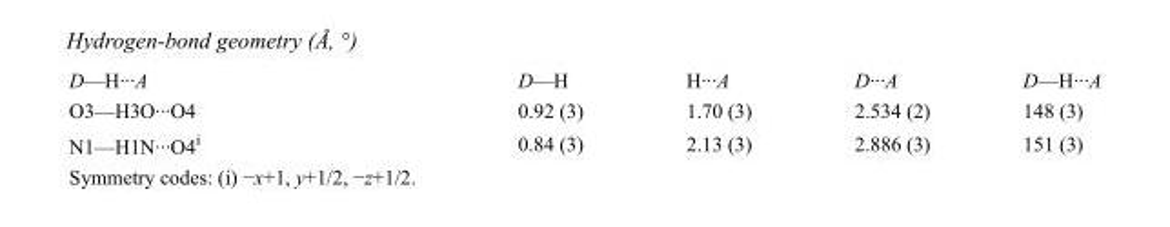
<table><tbody><tr><td>D—H···A</td><td>D—H</td><td>H···A</td><td>D···A</td><td>D—H···A</td></tr><tr><td>O3—H3O···O4</td><td>0.92 (3)</td><td>1.70 (3)</td><td>2.534 (2)</td><td>148 (3)</td></tr><tr><td>N1—H1N···O4<sup>i</sup></td><td>0.84 (3)</td><td>2.13 (3)</td><td>2.886 (3)</td><td>151 (3)</td></tr></tbody></table>